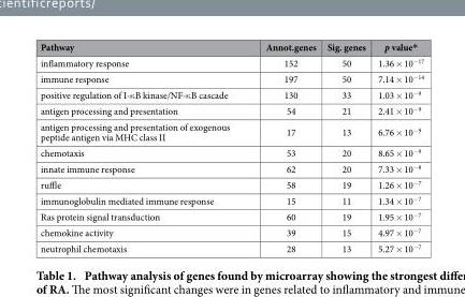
<table><thead><tr><td>Pathway</td><td>Annot.genes</td><td>Sig. genes</td><td>p value*</td></tr></thead><tbody><tr><td>inflammatory response</td><td>152</td><td>50</td><td>1.36 × 10<sup>−17</sup></td></tr><tr><td>immune response</td><td>197</td><td>50</td><td>7.14 × 10<sup>−14</sup></td></tr><tr><td>positive regulation of I-κ B kinase/NF-κ B cascade</td><td>130</td><td>33</td><td>1.03 × 10<sup>−9</sup></td></tr><tr><td>antigen processing and presentation</td><td>54</td><td>21</td><td>2.41 × 10<sup>−9</sup></td></tr><tr><td>antigen processing and presentation of exogenous peptide antigen via MHC class II</td><td>17</td><td>13</td><td>6.76 × 10<sup>−9</sup></td></tr><tr><td>chemotaxis</td><td>53</td><td>20</td><td>8.65 × 10<sup>−9</sup></td></tr><tr><td>innate immune response</td><td>62</td><td>20</td><td>7.33 × 10<sup>−8</sup></td></tr><tr><td>ruffle</td><td>58</td><td>19</td><td>1.26 × 10<sup>−7</sup></td></tr><tr><td>immunoglobulin mediated immune response</td><td>15</td><td>11</td><td>1.34 × 10<sup>−7</sup></td></tr><tr><td>Ras protein signal transduction</td><td>60</td><td>19</td><td>1.95 × 10<sup>−7</sup></td></tr><tr><td>chemokine activity</td><td>39</td><td>15</td><td>4.97 × 10<sup>−7</sup></td></tr><tr><td>neutrophil chemotaxis</td><td>28</td><td>13</td><td>5.27 × 10<sup>−7</sup></td></tr></tbody></table>